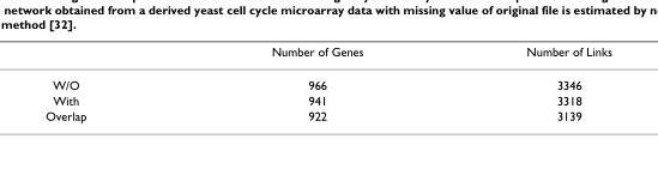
<table><thead><tr><td></td><td>Number of Genes</td><td>Number of Links</td></tr></thead><tbody><tr><td>W/O</td><td>966</td><td>3346</td></tr><tr><td>With</td><td>941</td><td>3318</td></tr><tr><td>Overlap</td><td>922</td><td>3139</td></tr></tbody></table>